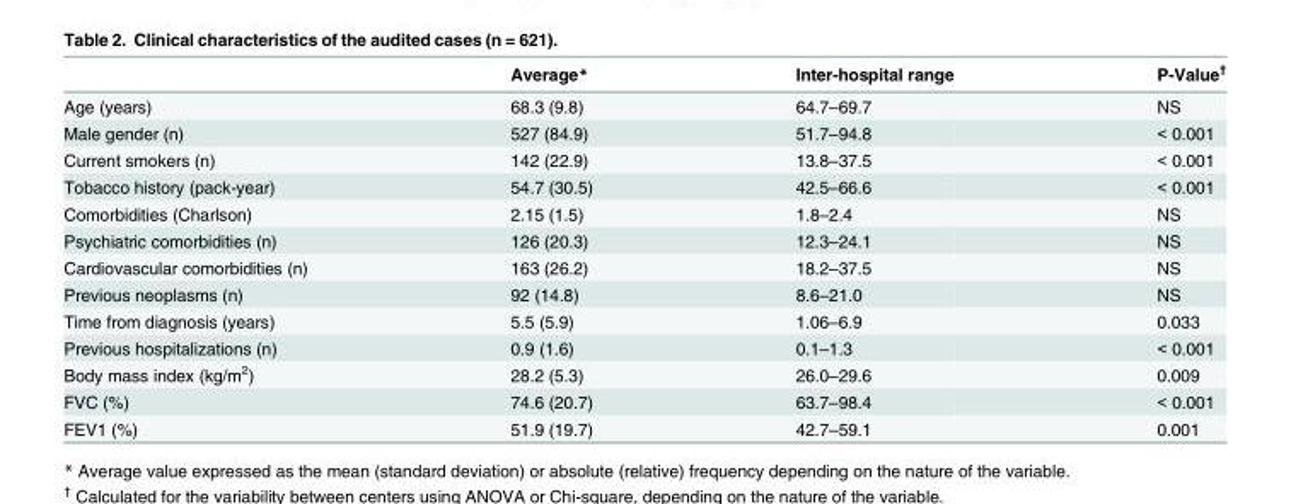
<table><thead><tr><td></td><td>Average*</td><td>Inter-hospital range</td><td>P-Value<sup>†</sup></td></tr></thead><tbody><tr><td>Age (years)</td><td>68.3 (9.8)</td><td>64.7–69.7</td><td>NS</td></tr><tr><td>Male gender (n)</td><td>527 (84.9)</td><td>51.7–94.8</td><td>&lt; 0.001</td></tr><tr><td>Current smokers (n)</td><td>142 (22.9)</td><td>13.8–37.5</td><td>&lt; 0.001</td></tr><tr><td>Tobacco history (pack-year)</td><td>54.7 (30.5)</td><td>42.5–66.6</td><td>&lt; 0.001</td></tr><tr><td>Comorbidities (Charlson)</td><td>2.15 (1.5)</td><td>1.8–2.4</td><td>NS</td></tr><tr><td>Psychiatric comorbidities (n)</td><td>126 (20.3)</td><td>12.3–24.1</td><td>NS</td></tr><tr><td>Cardiovascular comorbidities (n)</td><td>163 (26.2)</td><td>18.2–37.5</td><td>NS</td></tr><tr><td>Previous neoplasms (n)</td><td>92 (14.8)</td><td>8.6–21.0</td><td>NS</td></tr><tr><td>Time from diagnosis (years)</td><td>5.5 (5.9)</td><td>1.06–6.9</td><td>0.033</td></tr><tr><td>Previous hospitalizations (n)</td><td>0.9 (1.6)</td><td>0.1–1.3</td><td>&lt; 0.001</td></tr><tr><td>Body mass index (kg/m<sup>2</sup>)</td><td>28.2 (5.3)</td><td>26.0–29.6</td><td>0.009</td></tr><tr><td>FVC (%)</td><td>74.6 (20.7)</td><td>63.7–98.4</td><td>&lt; 0.001</td></tr><tr><td>FEV1 (%)</td><td>51.9 (19.7)</td><td>42.7–59.1</td><td>0.001</td></tr></tbody></table>